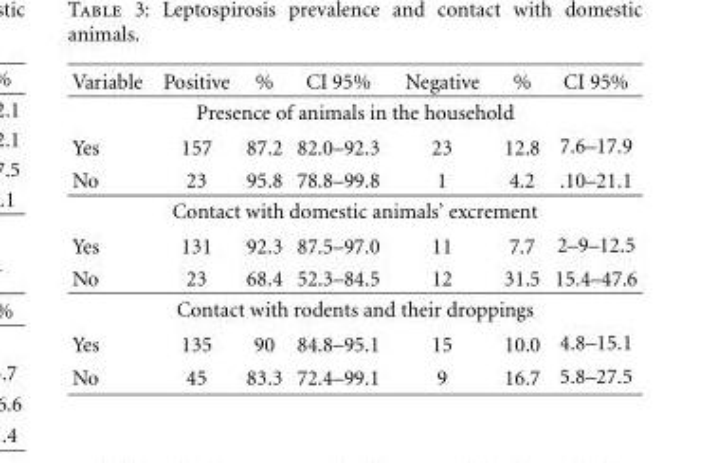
<table><thead><tr><td>Variable</td><td>Positive</td><td>%</td><td>CI 95%</td><td>Negative</td><td>%</td><td>CI 95%</td></tr></thead><tbody><tr><td colspan="7">Presence of animals in the household</td></tr><tr><td>Yes</td><td>157</td><td>87.2</td><td>82.0–92.3</td><td>23</td><td>12.8</td><td>7.6–17.9</td></tr><tr><td>No</td><td>23</td><td>95.8</td><td>78.8–99.8</td><td>1</td><td>4.2</td><td>.10–21.1</td></tr><tr><td colspan="7">Contact with domestic animals’ excrement</td></tr><tr><td>Yes</td><td>131</td><td>92.3</td><td>87.5–97.0</td><td>11</td><td>7.7</td><td>2–9–12.5</td></tr><tr><td>No</td><td>23</td><td>68.4</td><td>52.3–84.5</td><td>12</td><td>31.5</td><td>15.4–47.6</td></tr><tr><td colspan="7">Contact with rodents and their droppings</td></tr><tr><td>Yes</td><td>135</td><td>90</td><td>84.8–95.1</td><td>15</td><td>10.0</td><td>4.8–15.1</td></tr><tr><td>No</td><td>45</td><td>83.3</td><td>72.4–99.1</td><td>9</td><td>16.7</td><td>5.8–27.5</td></tr></tbody></table>